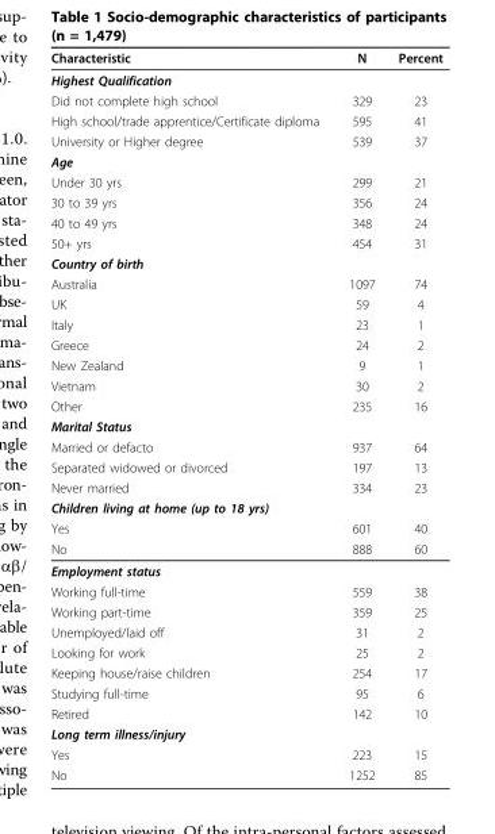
<table><thead><tr><td>Characteristic</td><td>N</td><td>Percent</td></tr></thead><tbody><tr><td colspan="3">Highest Qualification</td></tr><tr><td>Did not complete high school</td><td>329</td><td>23</td></tr><tr><td>High school/trade apprentice/Certificate diploma</td><td>595</td><td>41</td></tr><tr><td>University or Higher degree</td><td>539</td><td>37</td></tr><tr><td colspan="3">Age</td></tr><tr><td>Under 30 yrs</td><td>299</td><td>21</td></tr><tr><td>30 to 39 yrs</td><td>356</td><td>24</td></tr><tr><td>40 to 49 yrs</td><td>348</td><td>24</td></tr><tr><td>50+ yrs</td><td>454</td><td>31</td></tr><tr><td colspan="3">Country of birth</td></tr><tr><td>Australia</td><td>1097</td><td>74</td></tr><tr><td>UK</td><td>59</td><td>4</td></tr><tr><td>Italy</td><td>23</td><td>1</td></tr><tr><td>Greece</td><td>24</td><td>2</td></tr><tr><td>New Zealand</td><td>9</td><td>1</td></tr><tr><td>Vietnam</td><td>30</td><td>2</td></tr><tr><td>Other</td><td>235</td><td>16</td></tr><tr><td colspan="3">Marital Status</td></tr><tr><td>Married or defacto</td><td>937</td><td>64</td></tr><tr><td>Separated widowed or divorced</td><td>197</td><td>13</td></tr><tr><td>Never married</td><td>334</td><td>23</td></tr><tr><td colspan="3">Children living at home (up to 18 yrs)</td></tr><tr><td>Yes</td><td>601</td><td>40</td></tr><tr><td>No</td><td>888</td><td>60</td></tr><tr><td colspan="3">Employment status</td></tr><tr><td>Working full-time</td><td>559</td><td>38</td></tr><tr><td>Working part-time</td><td>359</td><td>25</td></tr><tr><td>Unemployed/laid off</td><td>31</td><td>2</td></tr><tr><td>Looking for work</td><td>25</td><td>2</td></tr><tr><td>Keeping house/raise children</td><td>254</td><td>17</td></tr><tr><td>Studying full-time</td><td>95</td><td>6</td></tr><tr><td>Retired</td><td>142</td><td>10</td></tr><tr><td colspan="3">Long term illness/injury</td></tr><tr><td>Yes</td><td>223</td><td>15</td></tr><tr><td>No</td><td>1252</td><td>85</td></tr></tbody></table>